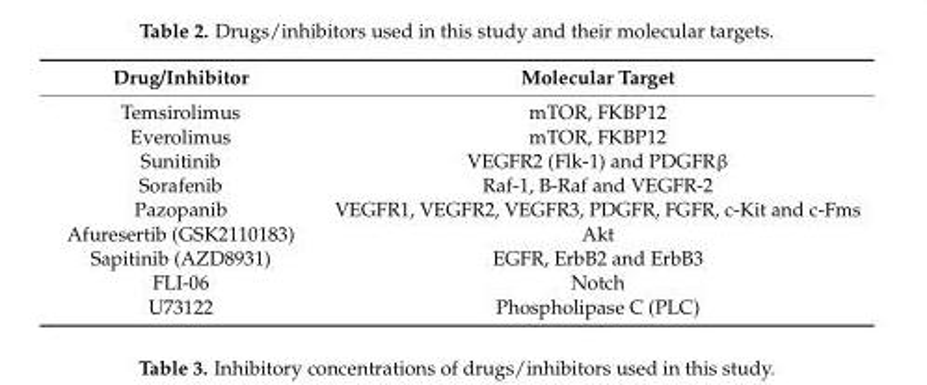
<table><thead><tr><td>Drug/Inhibitor</td><td>Molecular Target</td></tr></thead><tbody><tr><td>Temsirolimus</td><td>mTOR, FKBP12</td></tr><tr><td>Everolimus</td><td>mTOR, FKBP12</td></tr><tr><td>Sunitinib</td><td>VEGFR2 (Flk-1) and PDGFRβ</td></tr><tr><td>Sorafenib</td><td>Raf-1, B-Raf and VEGFR-2</td></tr><tr><td>Pazopanib</td><td>VEGFR1, VEGFR2, VEGFR3, PDGFR, FGFR, c-Kit and c-Fms</td></tr><tr><td>Afuresertib (GSK2110183)</td><td>Akt</td></tr><tr><td>Sapitinib (AZD8931)</td><td>EGFR, ErbB2 and ErbB3</td></tr><tr><td>FLI-06</td><td>Notch</td></tr><tr><td>U73122</td><td>Phospholipase C (PLC)</td></tr></tbody></table>